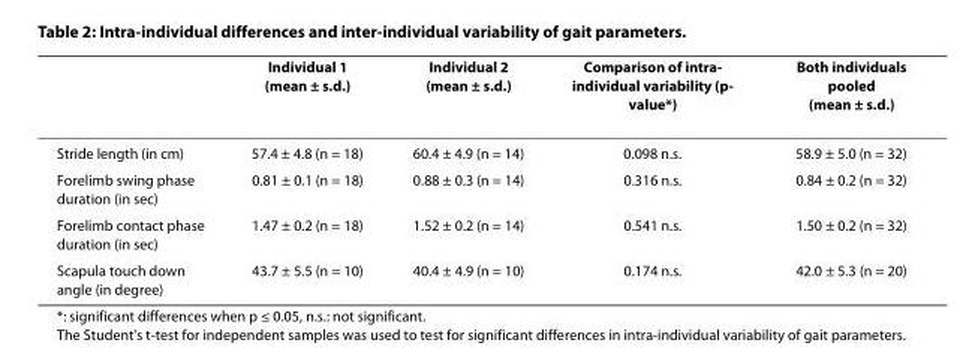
<table><thead><tr><td></td><td>Individual 1 (mean ± s.d.)</td><td>Individual 2 (mean ± s.d.)</td><td>Comparison of intra- individual variability (p- value*)</td><td>Both individuals pooled (mean ± s.d.)</td></tr></thead><tbody><tr><td>Stride length (in cm)</td><td>57.4 ± 4.8 (n = 18)</td><td>60.4 ± 4.9 (n = 14)</td><td>0.098 n.s.</td><td>58.9 ± 5.0 (n = 32)</td></tr><tr><td>Forelimb swing phase duration (in sec)</td><td>0.81 ± 0.1 (n = 18)</td><td>0.88 ± 0.3 (n = 14)</td><td>0.316 n.s.</td><td>0.84 ± 0.2 (n = 32)</td></tr><tr><td>Forelimb contact phase duration (in sec)</td><td>1.47 ± 0.2 (n = 18)</td><td>1.52 ± 0.2 (n = 14)</td><td>0.541 n.s.</td><td>1.50 ± 0.2 (n = 32)</td></tr><tr><td>Scapula touch down angle (in degree)</td><td>43.7 ± 5.5 (n = 10)</td><td>40.4 ± 4.9 (n = 10)</td><td>0.174 n.s.</td><td>42.0 ± 5.3 (n = 20)</td></tr></tbody></table>